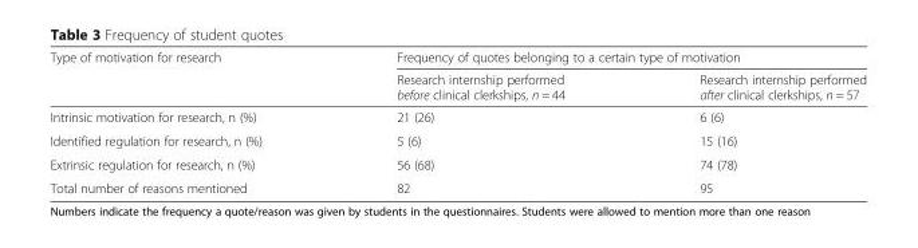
<table><thead><tr><td rowspan="2">Type of motivation for research</td><td colspan="2">Frequency of quotes belonging to a certain type of motivation</td></tr><tr><td>Research internship performed before clinical clerkships, n = 44</td><td>Research internship performed after clinical clerkships, n = 57</td></tr></thead><tbody><tr><td>Intrinsic motivation for research, n (%)</td><td>21 (26)</td><td>6 (6)</td></tr><tr><td>Identified regulation for research, n (%)</td><td>5 (6)</td><td>15 (16)</td></tr><tr><td>Extrinsic regulation for research, n (%)</td><td>56 (68)</td><td>74 (78)</td></tr><tr><td>Total number of reasons mentioned</td><td>82</td><td>95</td></tr></tbody></table>